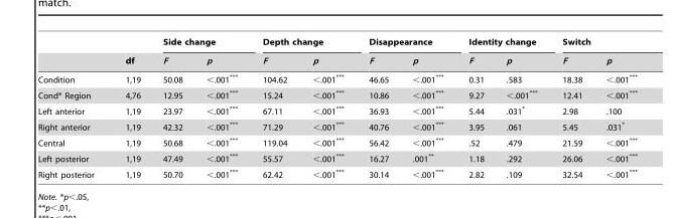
<table><thead><tr><td rowspan="2"></td><td rowspan="2">df</td><td colspan="2">Side change</td><td colspan="2">Depth change</td><td colspan="2">Disappearance</td><td colspan="2">Identity change</td><td colspan="2">Switch</td></tr><tr><td>F</td><td>p</td><td>F</td><td>p</td><td>F</td><td>p</td><td>F</td><td>p</td><td>F</td><td>p</td></tr></thead><tbody><tr><td>Condition</td><td>1,19</td><td>50.08</td><td>&lt;.001***</td><td>104.62</td><td>&lt;.001***</td><td>46.65</td><td>&lt;.001***</td><td>0.31</td><td>.583</td><td>18.38</td><td>&lt;.001***</td></tr><tr><td>Cond* Region</td><td>4,76</td><td>12.95</td><td>&lt;.001***</td><td>15.24</td><td>&lt;.001***</td><td>10.86</td><td>&lt;.001***</td><td>9.27</td><td>&lt;.001***</td><td>12.41</td><td>&lt;.001***</td></tr><tr><td>Left anterior</td><td>1,19</td><td>23.97</td><td>&lt;.001***</td><td>67.11</td><td>&lt;.001***</td><td>36.93</td><td>&lt;.001***</td><td>5.44</td><td>.031*</td><td>2.98</td><td>.100</td></tr><tr><td>Right anterior</td><td>1,19</td><td>42.32</td><td>&lt;.001***</td><td>71.29</td><td>&lt;.001***</td><td>40.76</td><td>&lt;.001***</td><td>3.95</td><td>.061</td><td>5.45</td><td>.031*</td></tr><tr><td>Central</td><td>1,19</td><td>50.68</td><td>&lt;.001***</td><td>119.04</td><td>&lt;.001***</td><td>56.42</td><td>&lt;.001***</td><td>.52</td><td>.479</td><td>21.59</td><td>&lt;.001***</td></tr><tr><td>Left posterior</td><td>1,19</td><td>47.49</td><td>&lt;.001***</td><td>55.57</td><td>&lt;.001***</td><td>16.27</td><td>.001**</td><td>1.18</td><td>.292</td><td>26.06</td><td>&lt;.001***</td></tr><tr><td>Right posterior</td><td>1,19</td><td>50.70</td><td>&lt;.001***</td><td>62.42</td><td>&lt;.001***</td><td>30.14</td><td>&lt;.001***</td><td>2.82</td><td>.109</td><td>32.54</td><td>&lt;.001***</td></tr></tbody></table>